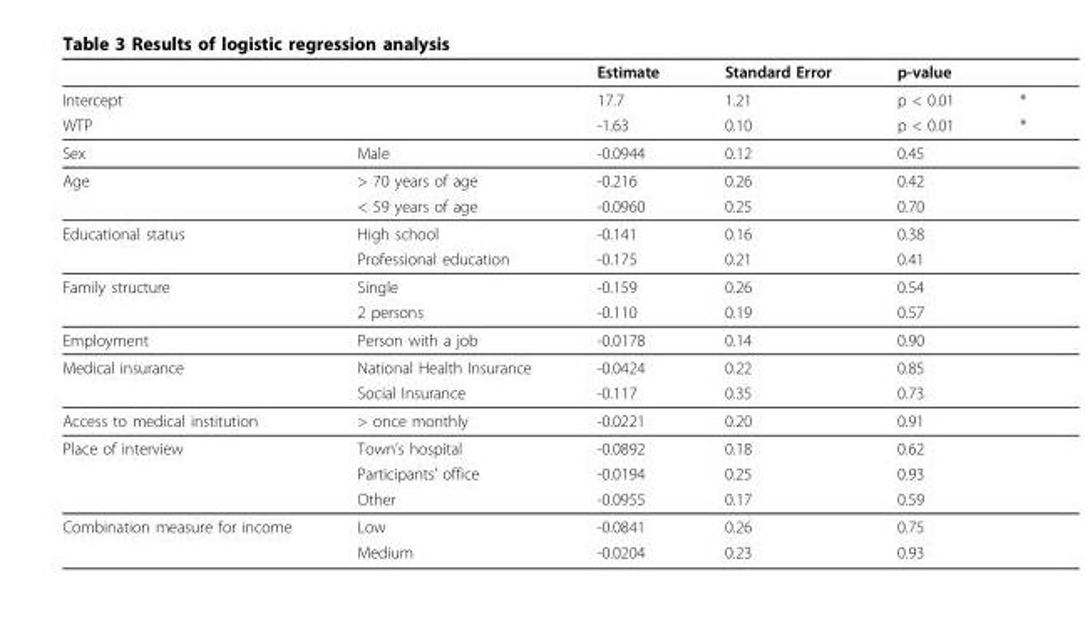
<table><thead><tr><td></td><td></td><td>Estimate</td><td>Standard Error</td><td>p-value</td><td></td></tr></thead><tbody><tr><td colspan="2">Intercept</td><td>17.7</td><td>1.21</td><td>p &lt; 0.01</td><td>*</td></tr><tr><td colspan="2">WTP</td><td>-1.63</td><td>0.10</td><td>p &lt; 0.01</td><td>*</td></tr><tr><td>Sex</td><td>Male</td><td>-0.0944</td><td>0.12</td><td>0.45</td><td></td></tr><tr><td rowspan="2">Age</td><td>&gt; 70 years of age</td><td>-0.216</td><td>0.26</td><td>0.42</td><td></td></tr><tr><td>&lt; 59 years of age</td><td>-0.0960</td><td>0.25</td><td>0.70</td><td></td></tr><tr><td rowspan="2">Educational status</td><td>High school</td><td>-0.141</td><td>0.16</td><td>0.38</td><td></td></tr><tr><td>Professional education</td><td>-0.175</td><td>0.21</td><td>0.41</td><td></td></tr><tr><td rowspan="2">Family structure</td><td>Single</td><td>-0.159</td><td>0.26</td><td>0.54</td><td></td></tr><tr><td>2 persons</td><td>-0.110</td><td>0.19</td><td>0.57</td><td></td></tr><tr><td>Employment</td><td>Person with a job</td><td>-0.0178</td><td>0.14</td><td>0.90</td><td></td></tr><tr><td rowspan="2">Medical insurance</td><td>National Health Insurance</td><td>-0.0424</td><td>0.22</td><td>0.85</td><td></td></tr><tr><td>Social Insurance</td><td>-0.117</td><td>0.35</td><td>0.73</td><td></td></tr><tr><td>Access to medical institution</td><td>&gt; once monthly</td><td>-0.0221</td><td>0.20</td><td>0.91</td><td></td></tr><tr><td rowspan="3">Place of interview</td><td>Town’s hospital</td><td>-0.0892</td><td>0.18</td><td>0.62</td><td></td></tr><tr><td>Participants’ office</td><td>-0.0194</td><td>0.25</td><td>0.93</td><td></td></tr><tr><td>Other</td><td>-0.0955</td><td>0.17</td><td>0.59</td><td></td></tr><tr><td rowspan="2">Combination measure for income</td><td>Low</td><td>-0.0841</td><td>0.26</td><td>0.75</td><td></td></tr><tr><td>Medium</td><td>-0.0204</td><td>0.23</td><td>0.93</td><td></td></tr></tbody></table>